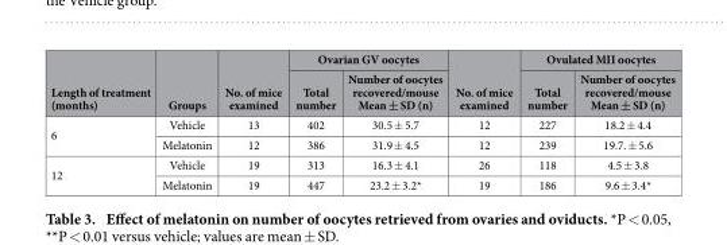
<table><thead><tr><td rowspan="2">Length of treatment (months)</td><td rowspan="2">Groups</td><td rowspan="2">No. of mice examined</td><td colspan="2">Ovarian GV oocytes</td><td rowspan="2">No. of mice examined</td><td colspan="2">Ovulated MII oocytes</td></tr><tr><td>Total number</td><td>Number of oocytes recovered/mouse Mean ± SD (n)</td><td>Total number</td><td>Number of oocytes recovered/mouse Mean ± SD (n)</td></tr></thead><tbody><tr><td rowspan="2">6</td><td>Vehicle</td><td>13</td><td>402</td><td>30.5 ± 5.7</td><td>12</td><td>227</td><td>18.2 ± 4.4</td></tr><tr><td>Melatonin</td><td>12</td><td>386</td><td>31.9 ± 4.5</td><td>12</td><td>239</td><td>19.7. ± 5.6</td></tr><tr><td rowspan="2">12</td><td>Vehicle</td><td>19</td><td>313</td><td>16.3 ± 4.1</td><td>26</td><td>118</td><td>4.5 ± 3.8</td></tr><tr><td>Melatonin</td><td>19</td><td>447</td><td>23.2 ± 3.2*</td><td>19</td><td>186</td><td>9.6 ± 3.4*</td></tr></tbody></table>